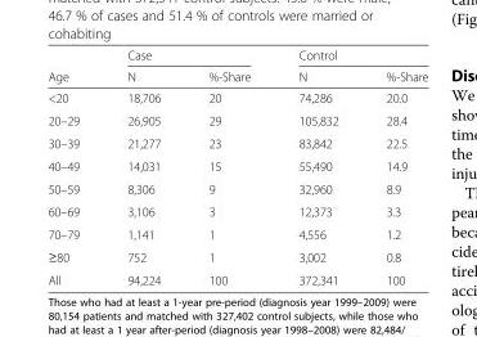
<table><thead><tr><td rowspan="2">Age</td><td colspan="2">Case</td><td colspan="2">Control</td></tr><tr><td>N</td><td>%-Share</td><td>N</td><td>%-Share</td></tr></thead><tbody><tr><td>&lt;20</td><td>18,706</td><td>20</td><td>74,286</td><td>20.0</td></tr><tr><td>20–29</td><td>26,905</td><td>29</td><td>105,832</td><td>28.4</td></tr><tr><td>30–39</td><td>21,277</td><td>23</td><td>83,842</td><td>22.5</td></tr><tr><td>40–49</td><td>14,031</td><td>15</td><td>55,490</td><td>14.9</td></tr><tr><td>50–59</td><td>8,306</td><td>9</td><td>32,960</td><td>8.9</td></tr><tr><td>60–69</td><td>3,106</td><td>3</td><td>12,373</td><td>3.3</td></tr><tr><td>70–79</td><td>1,141</td><td>1</td><td>4,556</td><td>1.2</td></tr><tr><td>≥80</td><td>752</td><td>1</td><td>3,002</td><td>0.8</td></tr><tr><td>All</td><td>94,224</td><td>100</td><td>372,341</td><td>100</td></tr></tbody></table>